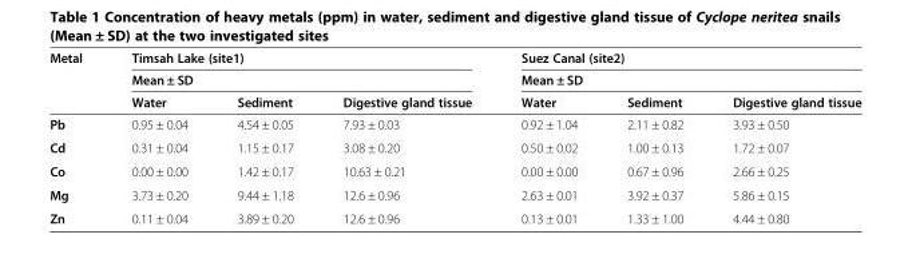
<table><thead><tr><td rowspan="3">Metal</td><td rowspan="2" colspan="3">Timsah Lake (site1) Mean ± SD</td><td rowspan="2" colspan="3">Suez Canal (site2) Mean ± SD</td></tr><tr></tr><tr><td>Water</td><td>Sediment</td><td>Digestive gland tissue</td><td>Water</td><td>Sediment</td><td>Digestive gland tissue</td></tr></thead><tbody><tr><td>Pb</td><td>0.95 ± 0.04</td><td>4.54 ± 0.05</td><td>7.93 ± 0.03</td><td>0.92 ± 1.04</td><td>2.11 ± 0.82</td><td>3.93 ± 0.50</td></tr><tr><td>Cd</td><td>0.31 ± 0.04</td><td>1.15 ± 0.17</td><td>3.08 ± 0.20</td><td>0.50 ± 0.02</td><td>1.00 ± 0.13</td><td>1.72 ± 0.07</td></tr><tr><td>Co</td><td>0.00 ± 0.00</td><td>1.42 ± 0.17</td><td>10.63 ± 0.21</td><td>0.00 ± 0.00</td><td>0.67 ± 0.96</td><td>2.66 ± 0.25</td></tr><tr><td>Mg</td><td>3.73 ± 0.20</td><td>9.44 ± 1.18</td><td>12.6 ± 0.96</td><td>2.63 ± 0.01</td><td>3.92 ± 0.37</td><td>5.86 ± 0.15</td></tr><tr><td>Zn</td><td>0.11 ± 0.04</td><td>3.89 ± 0.20</td><td>12.6 ± 0.96</td><td>0.13 ± 0.01</td><td>1.33 ± 1.00</td><td>4.44 ± 0.80</td></tr></tbody></table>